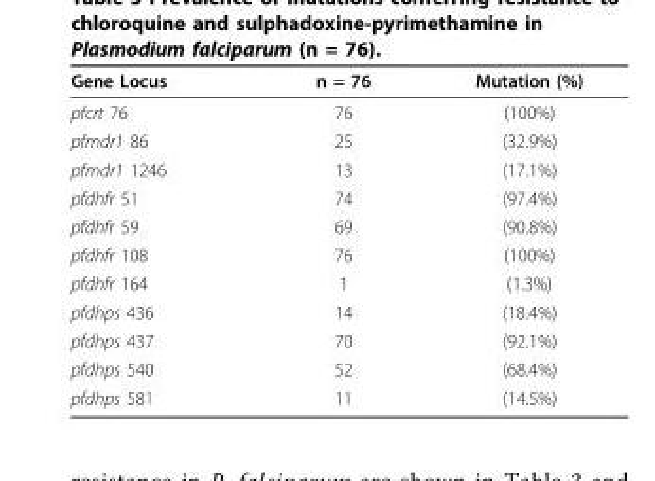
<table><thead><tr><td>Gene Locus</td><td>n = 76</td><td>Mutation (%)</td></tr></thead><tbody><tr><td>pfcrt 76</td><td>76</td><td>(100%)</td></tr><tr><td>pfmdr1 86</td><td>25</td><td>(32.9%)</td></tr><tr><td>pfmdr1 1246</td><td>13</td><td>(17.1%)</td></tr><tr><td>pfdhfr 51</td><td>74</td><td>(97.4%)</td></tr><tr><td>pfdhfr 59</td><td>69</td><td>(90.8%)</td></tr><tr><td>pfdhfr 108</td><td>76</td><td>(100%)</td></tr><tr><td>pfdhfr 164</td><td>1</td><td>(1.3%)</td></tr><tr><td>pfdhps 436</td><td>14</td><td>(18.4%)</td></tr><tr><td>pfdhps 437</td><td>70</td><td>(92.1%)</td></tr><tr><td>pfdhps 540</td><td>52</td><td>(68.4%)</td></tr><tr><td>pfdhps 581</td><td>11</td><td>(14.5%)</td></tr></tbody></table>